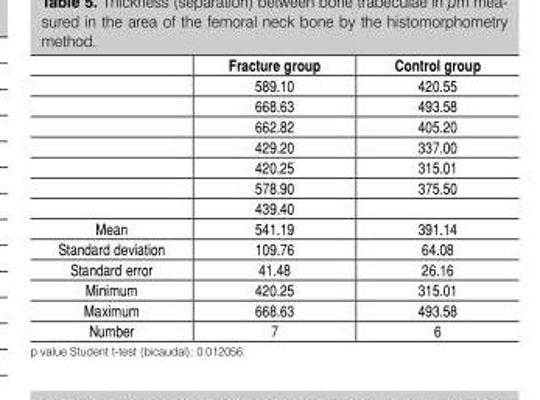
<table><thead><tr><td></td><td>Fracture group</td><td>Control group</td></tr></thead><tbody><tr><td></td><td>589.10</td><td>420.55</td></tr><tr><td></td><td>668.63</td><td>493.58</td></tr><tr><td></td><td>662.82</td><td>405.20</td></tr><tr><td></td><td>429.20</td><td>337.00</td></tr><tr><td></td><td>420.25</td><td>315.01</td></tr><tr><td></td><td>578.90</td><td>375.50</td></tr><tr><td></td><td>439.40</td><td></td></tr><tr><td>Mean</td><td>541.19</td><td>391.14</td></tr><tr><td>Standard deviation</td><td>109.76</td><td>64.08</td></tr><tr><td>Standard error</td><td>41.48</td><td>26.16</td></tr><tr><td>Minimum</td><td>420.25</td><td>315.01</td></tr><tr><td>Maximum</td><td>668.63</td><td>493.58</td></tr><tr><td>Number</td><td>7</td><td>6</td></tr></tbody></table>